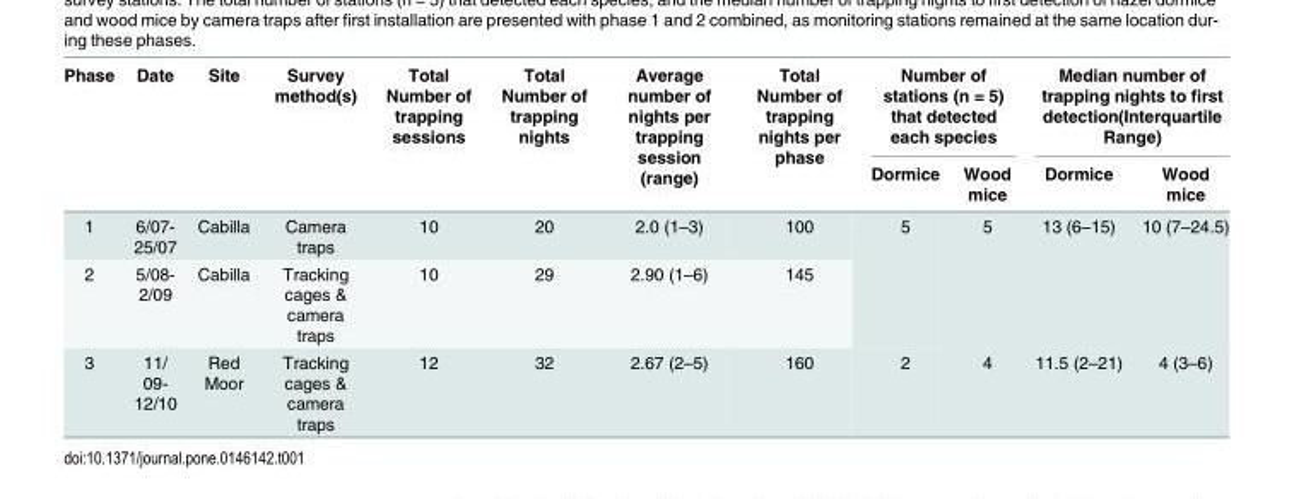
<table><thead><tr><td rowspan="2">Phase</td><td rowspan="2">Date</td><td rowspan="2">Site</td><td rowspan="2">Survey method(s)</td><td rowspan="2">Total Number of trapping sessions</td><td rowspan="2">Total Number of trapping nights</td><td rowspan="2">Average number of nights per trapping session (range)</td><td rowspan="2">Total Number of trapping nights per phase</td><td colspan="2">Number of stations (n = 5) that detected each species</td><td colspan="2">Median number of trapping nights to first detection(Interquartile Range)</td></tr><tr><td>Dormice</td><td>Wood mice</td><td>Dormice</td><td>Wood mice</td></tr></thead><tbody><tr><td>1</td><td>6/07- 25/07</td><td>Cabilla</td><td>Camera traps</td><td>10</td><td>20</td><td>2.0 (1–3)</td><td>100</td><td rowspan="2">5</td><td rowspan="2">5</td><td rowspan="2">13 (6–15)</td><td rowspan="2">10 (7–24.5)</td></tr><tr><td>2</td><td>5/08- 2/09</td><td>Cabilla</td><td>Tracking cages &amp; camera traps</td><td>10</td><td>29</td><td>2.90 (1–6)</td><td>145</td></tr><tr><td>3</td><td>11/ 09- 12/10</td><td>Red Moor</td><td>Tracking cages &amp; camera traps</td><td>12</td><td>32</td><td>2.67 (2–5)</td><td>160</td><td>2</td><td>4</td><td>11.5 (2–21)</td><td>4 (3–6)</td></tr></tbody></table>